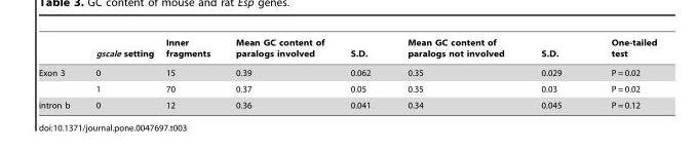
<table><thead><tr><td></td><td>gscale setting</td><td>Inner fragments</td><td>Mean GC content of paralogs involved</td><td>S.D.</td><td>Mean GC content of paralogs not involved</td><td>S.D.</td><td>One-tailed test</td></tr></thead><tbody><tr><td rowspan="2">Exon 3</td><td>0</td><td>15</td><td>0.39</td><td>0.062</td><td>0.35</td><td>0.029</td><td>P = 0.02</td></tr><tr><td>1</td><td>70</td><td>0.37</td><td>0.05</td><td>0.35</td><td>0.03</td><td>P = 0.02</td></tr><tr><td>intron b</td><td>0</td><td>12</td><td>0.36</td><td>0.041</td><td>0.34</td><td>0.045</td><td>P = 0.12</td></tr></tbody></table>